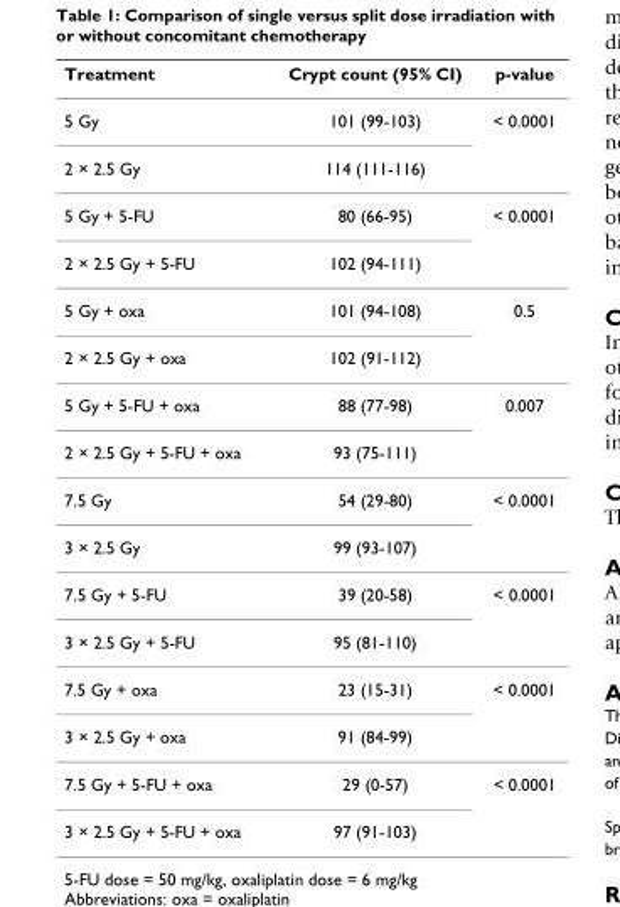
<table><thead><tr><td>Treatment</td><td>Crypt count (95% CI)</td><td>p-value</td></tr></thead><tbody><tr><td>5 Gy</td><td>101 (99-103)</td><td>&lt; 0.0001</td></tr><tr><td>2 × 2.5 Gy</td><td>114 (111-116)</td><td></td></tr><tr><td>5 Gy + 5-FU</td><td>80 (66-95)</td><td>&lt; 0.0001</td></tr><tr><td>2 × 2.5 Gy + 5-FU</td><td>102 (94-111)</td><td></td></tr><tr><td>5 Gy + oxa</td><td>101 (94-108)</td><td>0.5</td></tr><tr><td>2 × 2.5 Gy + oxa</td><td>102 (91-112)</td><td></td></tr><tr><td>5 Gy + 5-FU + oxa</td><td>88 (77-98)</td><td>0.007</td></tr><tr><td>2 × 2.5 Gy + 5-FU + oxa</td><td>93 (75-111)</td><td></td></tr><tr><td>7.5 Gy</td><td>54 (29-80)</td><td>&lt; 0.0001</td></tr><tr><td>3 × 2.5 Gy</td><td>99 (93-107)</td><td></td></tr><tr><td>7.5 Gy + 5-FU</td><td>39 (20-58)</td><td>&lt; 0.0001</td></tr><tr><td>3 × 2.5 Gy + 5-FU</td><td>95 (81-110)</td><td></td></tr><tr><td>7.5 Gy + oxa</td><td>23 (15-31)</td><td>&lt; 0.0001</td></tr><tr><td>3 × 2.5 Gy + oxa</td><td>91 (84-99)</td><td></td></tr><tr><td>7.5 Gy + 5-FU + oxa</td><td>29 (0-57)</td><td>&lt; 0.0001</td></tr><tr><td>3 × 2.5 Gy + 5-FU + oxa</td><td>97 (91-103)</td><td></td></tr></tbody></table>